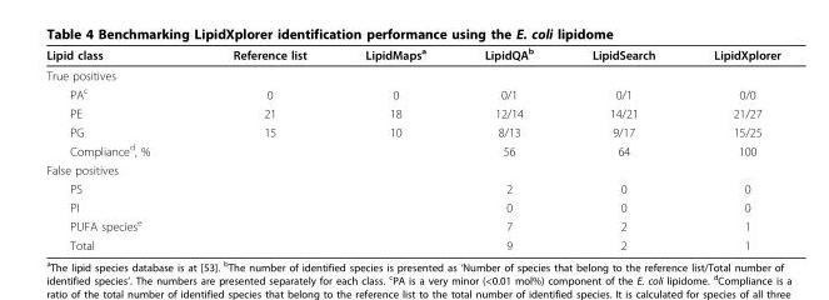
<table><thead><tr><td>Lipid class</td><td>Reference list</td><td>LipidMaps<sup>a</sup></td><td>LipidQA<sup>b</sup></td><td>LipidSearch</td><td>LipidXplorer</td></tr></thead><tbody><tr><td colspan="6">True positives</td></tr><tr><td>PA<sup>c</sup></td><td>0</td><td>0</td><td>0/1</td><td>0/1</td><td>0/0</td></tr><tr><td>PE</td><td>21</td><td>18</td><td>12/14</td><td>14/21</td><td>21/27</td></tr><tr><td>PG</td><td>15</td><td>10</td><td>8/13</td><td>9/17</td><td>15/25</td></tr><tr><td>Compliance<sup>d</sup>, %</td><td></td><td></td><td>56</td><td>64</td><td>100</td></tr><tr><td colspan="6">False positives</td></tr><tr><td>PS</td><td></td><td></td><td>2</td><td>0</td><td>0</td></tr><tr><td>PI</td><td></td><td></td><td>0</td><td>0</td><td>0</td></tr><tr><td>PUFA species<sup>e</sup></td><td></td><td></td><td>7</td><td>2</td><td>1</td></tr><tr><td>Total</td><td></td><td></td><td>9</td><td>2</td><td>1</td></tr></tbody></table>